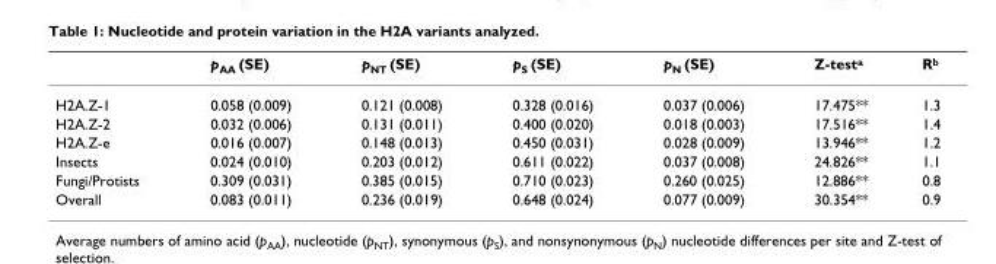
<table><thead><tr><td></td><td>p<sub>AA</sub> (SE)</td><td>p<sub>NT</sub> (SE)</td><td>p<sub>S</sub> (SE)</td><td>p<sub>N</sub> (SE)</td><td>Z-test<sup>a</sup></td><td>R<sup>b</sup></td></tr></thead><tbody><tr><td>H2A.Z-1</td><td>0.058 (0.009)</td><td>0.121 (0.008)</td><td>0.328 (0.016)</td><td>0.037 (0.006)</td><td>17.475**</td><td>1.3</td></tr><tr><td>H2A.Z-2</td><td>0.032 (0.006)</td><td>0.131 (0.011)</td><td>0.400 (0.020)</td><td>0.018 (0.003)</td><td>17.516**</td><td>1.4</td></tr><tr><td>H2A.Z-e</td><td>0.016 (0.007)</td><td>0.148 (0.013)</td><td>0.450 (0.031)</td><td>0.028 (0.009)</td><td>13.946**</td><td>1.2</td></tr><tr><td>Insects</td><td>0.024 (0.010)</td><td>0.203 (0.012)</td><td>0.611 (0.022)</td><td>0.037 (0.008)</td><td>24.826**</td><td>1.1</td></tr><tr><td>Fungi/Protists</td><td>0.309 (0.031)</td><td>0.385 (0.015)</td><td>0.710 (0.023)</td><td>0.260 (0.025)</td><td>12.886**</td><td>0.8</td></tr><tr><td>Overall</td><td>0.083 (0.011)</td><td>0.236 (0.019)</td><td>0.648 (0.024)</td><td>0.077 (0.009)</td><td>30.354**</td><td>0.9</td></tr></tbody></table>